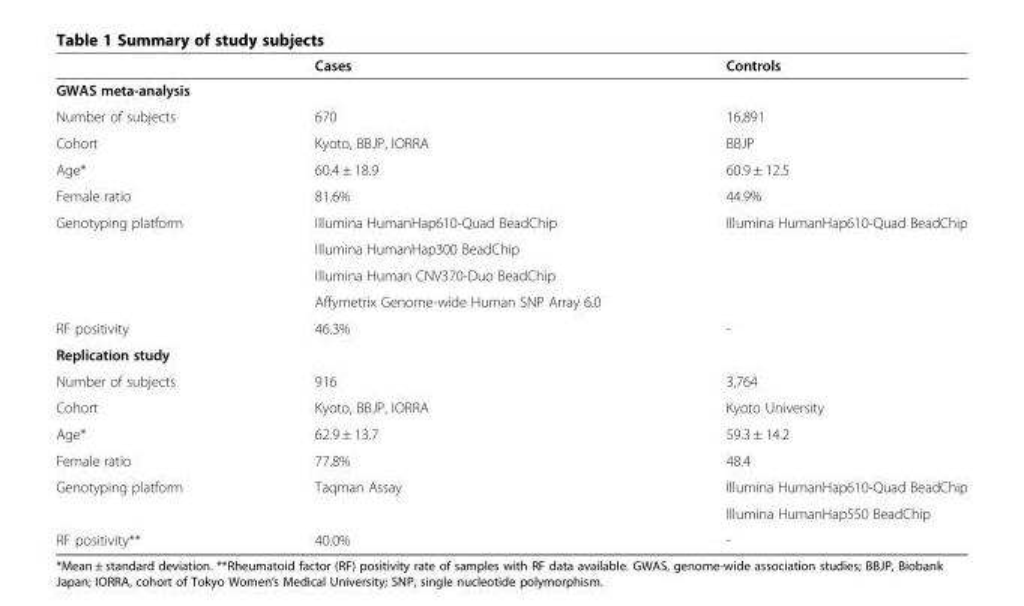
<table><thead><tr><td></td><td>Cases</td><td>Controls</td></tr></thead><tbody><tr><td colspan="3">GWAS meta-analysis</td></tr><tr><td>Number of subjects</td><td>670</td><td>16,891</td></tr><tr><td>Cohort</td><td>Kyoto, BBJP, IORRA</td><td>BBJP</td></tr><tr><td>Age*</td><td>60.4 ± 18.9</td><td>60.9 ± 12.5</td></tr><tr><td>Female ratio</td><td>81.6%</td><td>44.9%</td></tr><tr><td rowspan="4">Genotyping platform</td><td>Illumina HumanHap610-Quad BeadChip</td><td rowspan="4">Illumina HumanHap610-Quad BeadChip</td></tr><tr><td>Illumina HumanHap300 BeadChip</td></tr><tr><td>Illumina Human CNV370-Duo BeadChip</td></tr><tr><td>Affymetrix Genome-wide Human SNP Array 6.0</td></tr><tr><td>RF positivity</td><td>46.3%</td><td>-</td></tr><tr><td colspan="3">Replication study</td></tr><tr><td>Number of subjects</td><td>916</td><td>3,764</td></tr><tr><td>Cohort</td><td>Kyoto, BBJP, IORRA</td><td>Kyoto University</td></tr><tr><td>Age*</td><td>62.9 ± 13.7</td><td>59.3 ± 14.2</td></tr><tr><td>Female ratio</td><td>77.8%</td><td>48.4</td></tr><tr><td rowspan="2">Genotyping platform</td><td rowspan="2">Taqman Assay</td><td>Illumina HumanHap610-Quad BeadChip</td></tr><tr><td>Illumina HumanHap550 BeadChip</td></tr><tr><td>RF positivity**</td><td>40.0%</td><td>-</td></tr></tbody></table>